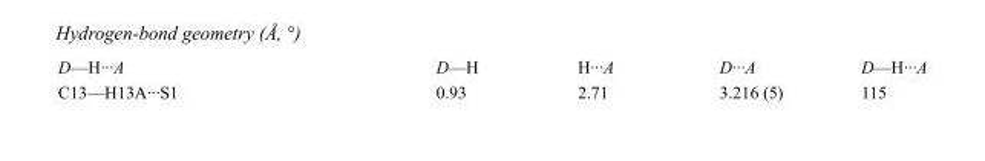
<table><tbody><tr><td>D—H···A</td><td>D—H</td><td>H···A</td><td>D···A</td><td>D—H···A</td></tr><tr><td>C13—H13A···S1</td><td>0.93</td><td>2.71</td><td>3.216 (5)</td><td>115</td></tr></tbody></table>